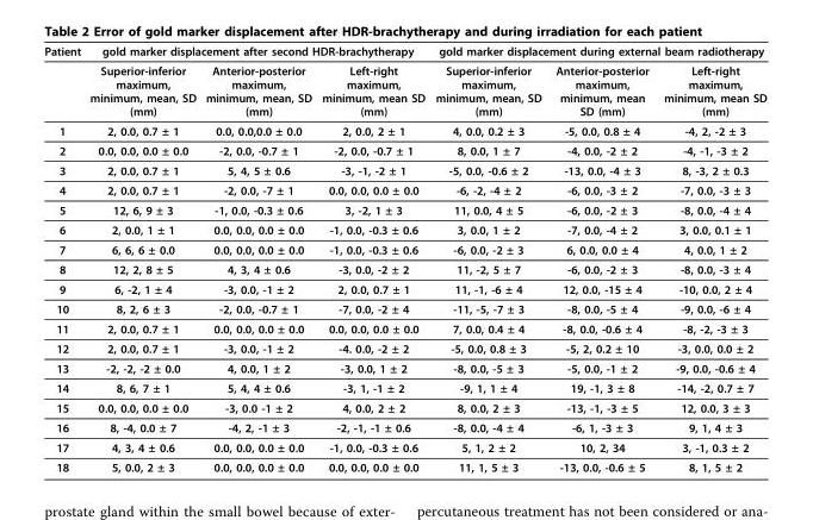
<table><thead><tr><td rowspan="2">Patient</td><td colspan="3">gold marker displacement after second HDR-brachytherapy</td><td colspan="3">gold marker displacement during external beam radiotherapy</td></tr><tr><td>Superior-inferior maximum, minimum, mean, SD (mm)</td><td>Anterior-posterior maximum, minimum, mean, SD (mm)</td><td>Left-right maximum, minimum, mean SD (mm)</td><td>Superior-inferior maximum, minimum, mean, SD (mm)</td><td>Anterior-posterior maximum, minimum, mean SD (mm)</td><td>Left-right maximum, minimum, mean SD (mm)</td></tr></thead><tbody><tr><td>1</td><td>2, 0.0, 0.7 ± 1</td><td>0.0, 0.0,0.0 ± 0.0</td><td>2, 0.0, 2 ± 1</td><td>4, 0.0, 0.2 ± 3</td><td>-5, 0.0, 0.8 ± 4</td><td>-4, 2, -2 ± 3</td></tr><tr><td>2</td><td>0.0, 0.0, 0.0 ± 0.0</td><td>-2, 0.0, -0.7 ± 1</td><td>-2, 0.0, -0.7 ± 1</td><td>8, 0.0, 1 ± 7</td><td>-4, 0.0, -2 ± 2</td><td>-4, -1, -3 ± 2</td></tr><tr><td>3</td><td>2, 0.0, 0.7 ± 1</td><td>5, 4, 5 ± 0.6</td><td>-3, -1, -2 ± 1</td><td>-5, 0.0, -0.6 ± 2</td><td>-13, 0.0, -4 ± 3</td><td>8, -3, 2 ± 0.3</td></tr><tr><td>4</td><td>2, 0.0, 0.7 ± 1</td><td>-2, 0.0, -7 ± 1</td><td>0.0, 0.0, 0.0 ± 0.0</td><td>-6, -2, -4 ± 2</td><td>-6, 0.0, -3 ± 2</td><td>-7, 0.0, -3 ± 3</td></tr><tr><td>5</td><td>12, 6, 9 ± 3</td><td>-1, 0.0, -0.3 ± 0.6</td><td>3, -2, 1 ± 3</td><td>11, 0.0, 4 ± 5</td><td>-6, 0.0, -2 ± 3</td><td>-8, 0.0, -4 ± 4</td></tr><tr><td>6</td><td>2, 0.0, 1 ± 1</td><td>0.0, 0.0, 0.0 ± 0.0</td><td>-1, 0.0, -0.3 ± 0.6</td><td>3, 0.0, 1 ± 2</td><td>-7, 0.0, -4 ± 2</td><td>3, 0.0, 0.1 ± 1</td></tr><tr><td>7</td><td>6, 6, 6 ± 0.0</td><td>0.0, 0.0, 0.0 ± 0.0</td><td>-1, 0.0, -0.3 ± 0.6</td><td>-6, 0.0, -2 ± 3</td><td>6, 0.0, 0.0 ± 4</td><td>4, 0.0, 1 ± 2</td></tr><tr><td>8</td><td>12, 2, 8 ± 5</td><td>4, 3, 4 ± 0.6</td><td>-3, 0.0, -2 ± 2</td><td>11, -2, 5 ± 7</td><td>-6, 0.0, -2 ± 3</td><td>-8, 0.0, -3 ± 4</td></tr><tr><td>9</td><td>6, -2, 1 ± 4</td><td>-3, 0.0, -1 ± 2</td><td>2, 0.0, 0.7 ± 1</td><td>11, -1, -6 ± 4</td><td>12, 0.0, -15 ± 4</td><td>-10, 0.0, 2 ± 4</td></tr><tr><td>10</td><td>8, 2, 6 ± 3</td><td>-2, 0.0, -0.7 ± 1</td><td>-7, 0.0, -2 ± 4</td><td>-11, -5, -7 ± 3</td><td>-8, 0.0, -5 ± 4</td><td>-9, 0.0, -6 ± 4</td></tr><tr><td>11</td><td>2, 0.0, 0.7 ± 1</td><td>0.0, 0.0, 0.0 ± 0.0</td><td>0.0, 0.0, 0.0 ± 0.0</td><td>7, 0.0, 0.4 ± 4</td><td>-8, 0.0, -0.6 ± 4</td><td>-8, -2, -3 ± 3</td></tr><tr><td>12</td><td>2, 0.0, 0.7 ± 1</td><td>-3, 0.0, -1 ± 2</td><td>-4. 0.0, -2 ± 2</td><td>-5, 0.0, 0.8 ± 3</td><td>-5, 2, 0.2 ± 10</td><td>-3, 0.0, 0.0 ± 2</td></tr><tr><td>13</td><td>-2, -2, -2 ± 0.0</td><td>4, 0.0, 1 ± 2</td><td>-3, 0.0, 1 ± 2</td><td>-8, 0.0, -5 ± 3</td><td>-5, 0.0, -1 ± 2</td><td>-9, 0.0, -0.6 ± 4</td></tr><tr><td>14</td><td>8, 6, 7 ± 1</td><td>5, 4, 4 ± 0.6</td><td>-3, 1, -1 ± 2</td><td>-9, 1, 1 ± 4</td><td>19, -1, 3 ± 8</td><td>-14, -2, 0.7 ± 7</td></tr><tr><td>15</td><td>0.0, 0.0, 0.0 ± 0.0</td><td>-3, 0.0 -1 ± 2</td><td>4, 0.0, 2 ± 2</td><td>8, 0.0, 2 ± 3</td><td>-13, -1, -3 ± 5</td><td>12, 0.0, 3 ± 3</td></tr><tr><td>16</td><td>8, -4, 0.0 ± 7</td><td>-4, 2, -1 ± 3</td><td>-2, -1, -1 ± 0.6</td><td>-8, 0.0, -4 ± 4</td><td>-6, 1, -3 ± 3</td><td>9, 1, 4 ± 3</td></tr><tr><td>17</td><td>4, 3, 4 ± 0.6</td><td>0.0, 0.0, 0.0 ± 0.0</td><td>-1, 0.0, -0.3 ± 0.6</td><td>5, 1, 2 ± 2</td><td>10, 2, 34</td><td>3, -1, 0.3 ± 2</td></tr><tr><td>18</td><td>5, 0.0, 2 ± 3</td><td>0.0, 0.0, 0.0 ± 0.0</td><td>0.0, 0.0, 0.0 ± 0.0</td><td>11, 1, 5 ± 3</td><td>-13, 0.0, -0.6 ± 5</td><td>8, 1, 5 ± 2</td></tr></tbody></table>